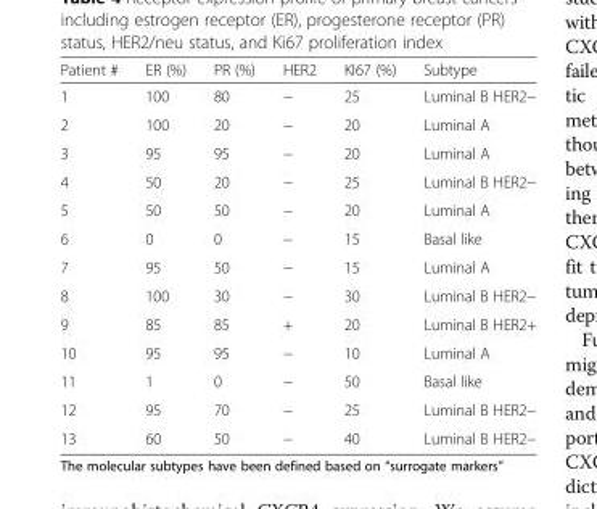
<table><thead><tr><td>Patient #</td><td>ER (%)</td><td>PR (%)</td><td>HER2</td><td>KI67 (%)</td><td>Subtype</td></tr></thead><tbody><tr><td>1</td><td>100</td><td>80</td><td>−</td><td>25</td><td>Luminal B HER2−</td></tr><tr><td>2</td><td>100</td><td>20</td><td>−</td><td>20</td><td>Luminal A</td></tr><tr><td>3</td><td>95</td><td>95</td><td>−</td><td>20</td><td>Luminal A</td></tr><tr><td>4</td><td>50</td><td>20</td><td>−</td><td>25</td><td>Luminal B HER2−</td></tr><tr><td>5</td><td>50</td><td>50</td><td>−</td><td>20</td><td>Luminal A</td></tr><tr><td>6</td><td>0</td><td>0</td><td>−</td><td>15</td><td>Basal like</td></tr><tr><td>7</td><td>95</td><td>50</td><td>−</td><td>15</td><td>Luminal A</td></tr><tr><td>8</td><td>100</td><td>30</td><td>−</td><td>30</td><td>Luminal B HER2−</td></tr><tr><td>9</td><td>85</td><td>85</td><td>+</td><td>20</td><td>Luminal B HER2+</td></tr><tr><td>10</td><td>95</td><td>95</td><td>−</td><td>10</td><td>Luminal A</td></tr><tr><td>11</td><td>1</td><td>0</td><td>−</td><td>50</td><td>Basal like</td></tr><tr><td>12</td><td>95</td><td>70</td><td>−</td><td>25</td><td>Luminal B HER2−</td></tr><tr><td>13</td><td>60</td><td>50</td><td>−</td><td>40</td><td>Luminal B HER2−</td></tr></tbody></table>